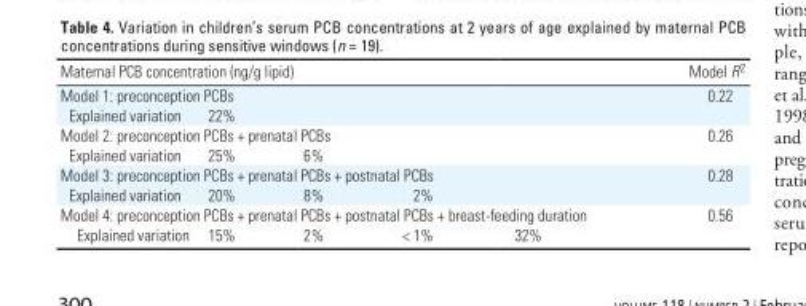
<table><thead><tr><td rowspan="2" colspan="5">Maternal PCB concentration (ng/g lipid) Model 1: preconception PCBs</td><td rowspan="3">Model R2 0.22</td></tr><tr></tr><tr><td>Explained variation</td><td>22%</td><td></td><td></td><td></td></tr></thead><tbody><tr><td colspan="5">Model 2: preconception PCBs + prenatal PCBs</td><td>0.26</td></tr><tr><td>Explained variation</td><td>25%</td><td>6%</td><td></td><td></td><td></td></tr><tr><td colspan="5">Model 3: preconception PCBs + prenatal PCBs + postnatal PCBs</td><td>0.28</td></tr><tr><td>Explained variation</td><td>20%</td><td>8%</td><td>2%</td><td></td><td></td></tr><tr><td colspan="5">Model 4: preconception PCBs + prenatal PCBs + postnatal PCBs + breast-feeding duration</td><td>0.56</td></tr><tr><td>Explained variation</td><td>15%</td><td>2%</td><td>&lt; 1%</td><td>32%</td><td></td></tr></tbody></table>